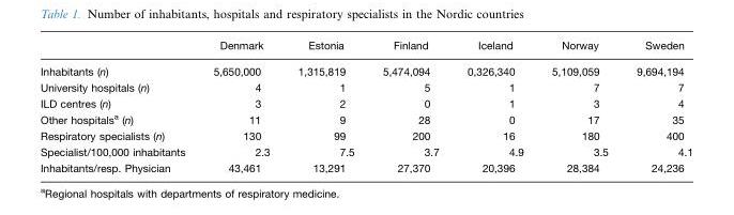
<table><thead><tr><td></td><td>Denmark</td><td>Estonia</td><td>Finland</td><td>Iceland</td><td>Norway</td><td>Sweden</td></tr></thead><tbody><tr><td>Inhabitants (n)</td><td>5,650,000</td><td>1,315,819</td><td>5,474,094</td><td>0,326,340</td><td>5,109,059</td><td>9,694,194</td></tr><tr><td>University hospitals (n)</td><td>4</td><td>1</td><td>5</td><td>1</td><td>7</td><td>7</td></tr><tr><td>ILD centres (n)</td><td>3</td><td>2</td><td>0</td><td>1</td><td>3</td><td>4</td></tr><tr><td>Other hospitals<sup>a</sup> (n)</td><td>11</td><td>9</td><td>28</td><td>0</td><td>17</td><td>35</td></tr><tr><td>Respiratory specialists (n)</td><td>130</td><td>99</td><td>200</td><td>16</td><td>180</td><td>400</td></tr><tr><td>Specialist/100,000 inhabitants</td><td>2.3</td><td>7.5</td><td>3.7</td><td>4.9</td><td>3.5</td><td>4.1</td></tr><tr><td>Inhabitants/resp. Physician</td><td>43,461</td><td>13,291</td><td>27,370</td><td>20,396</td><td>28,384</td><td>24,236</td></tr></tbody></table>